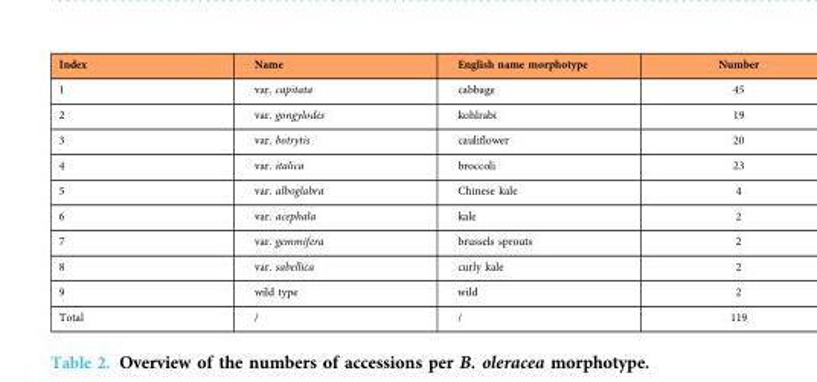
<table><thead><tr><td>Index</td><td>Name</td><td>English name morphotype</td><td>Number</td></tr></thead><tbody><tr><td>1</td><td>var. capitata</td><td>cabbage</td><td>45</td></tr><tr><td>2</td><td>var. gongylodes</td><td>kohlrabi</td><td>19</td></tr><tr><td>3</td><td>var. botrytis</td><td>cauliflower</td><td>20</td></tr><tr><td>4</td><td>var. italica</td><td>broccoli</td><td>23</td></tr><tr><td>5</td><td>var. alboglabra</td><td>Chinese kale</td><td>4</td></tr><tr><td>6</td><td>var. acephala</td><td>kale</td><td>2</td></tr><tr><td>7</td><td>var. gemmifera</td><td>brussels sprouts</td><td>2</td></tr><tr><td>8</td><td>var. sabellica</td><td>curly kale</td><td>2</td></tr><tr><td>9</td><td>wild type</td><td>wild</td><td>2</td></tr><tr><td>Total</td><td>/</td><td>/</td><td>119</td></tr></tbody></table>